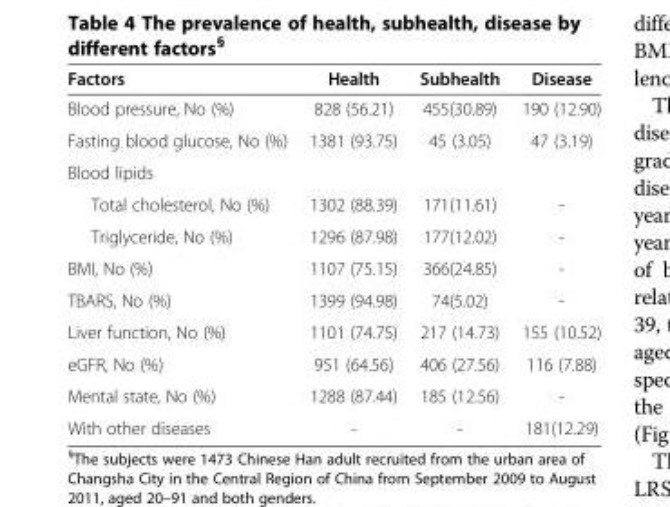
<table><thead><tr><td>Factors</td><td>Health</td><td>Subhealth</td><td>Disease</td></tr></thead><tbody><tr><td>Blood pressure, No (%)</td><td>828 (56.21)</td><td>455(30.89)</td><td>190 (12.90)</td></tr><tr><td>Fasting blood glucose, No (%)</td><td>1381 (93.75)</td><td>45 (3.05)</td><td>47 (3.19)</td></tr><tr><td colspan="4">Blood lipids</td></tr><tr><td>Total cholesterol, No (%)</td><td>1302 (88.39)</td><td>171(11.61)</td><td>-</td></tr><tr><td>Triglyceride, No (%)</td><td>1296 (87.98)</td><td>177(12.02)</td><td>-</td></tr><tr><td>BMI, No (%)</td><td>1107 (75.15)</td><td>366(24.85)</td><td>-</td></tr><tr><td>TBARS, No (%)</td><td>1399 (94.98)</td><td>74(5.02)</td><td>-</td></tr><tr><td>Liver function, No (%)</td><td>1101 (74.75)</td><td>217 (14.73)</td><td>155 (10.52)</td></tr><tr><td>eGFR, No (%)</td><td>951 (64.56)</td><td>406 (27.56)</td><td>116 (7.88)</td></tr><tr><td>Mental state, No (%)</td><td>1288 (87.44)</td><td>185 (12.56)</td><td>-</td></tr><tr><td>With other diseases</td><td>-</td><td>-</td><td>181(12.29)</td></tr></tbody></table>